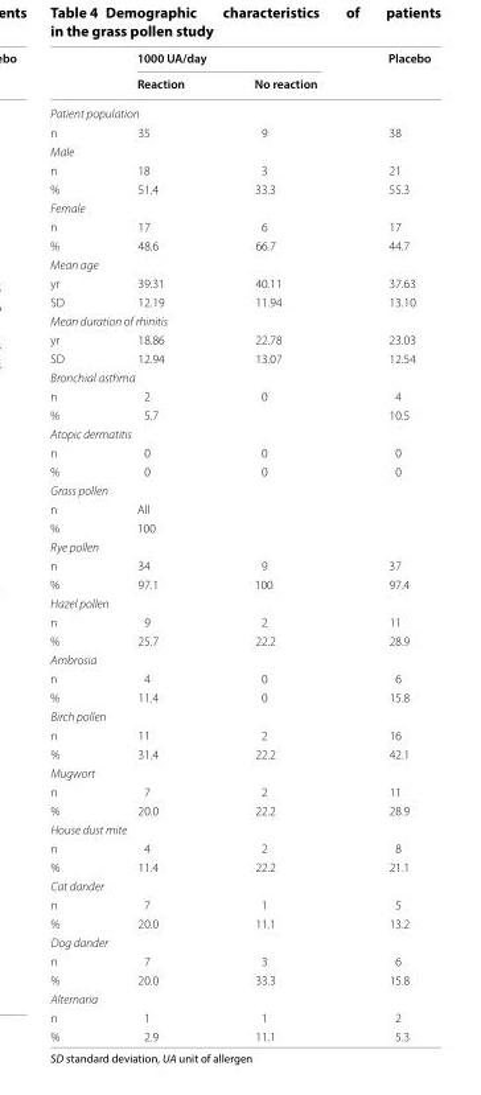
<table><thead><tr><td rowspan="2"></td><td colspan="2">1000 UA/day</td><td rowspan="2">Placebo</td></tr><tr><td>Reaction</td><td>No reaction</td></tr></thead><tbody><tr><td colspan="4">Patient population</td></tr><tr><td>n</td><td>35</td><td>9</td><td>38</td></tr><tr><td colspan="4">Male</td></tr><tr><td>n</td><td>18</td><td>3</td><td>21</td></tr><tr><td>%</td><td>51.4</td><td>33.3</td><td>55.3</td></tr><tr><td colspan="4">Female</td></tr><tr><td>n</td><td>17</td><td>6</td><td>17</td></tr><tr><td>%</td><td>48.6</td><td>66.7</td><td>44.7</td></tr><tr><td colspan="4">Mean age</td></tr><tr><td>yr</td><td>39.31</td><td>40.11</td><td>37.63</td></tr><tr><td>SD</td><td>12.19</td><td>11.94</td><td>13.10</td></tr><tr><td colspan="4">Mean duration of rhinitis</td></tr><tr><td>yr</td><td>18.86</td><td>22.78</td><td>23.03</td></tr><tr><td>SD</td><td>12.94</td><td>13.07</td><td>12.54</td></tr><tr><td colspan="4">Bronchial asthma</td></tr><tr><td>n</td><td>2</td><td>0</td><td>4</td></tr><tr><td>%</td><td>5.7</td><td></td><td>10.5</td></tr><tr><td colspan="4">Atopic dermatitis</td></tr><tr><td>n</td><td>0</td><td>0</td><td>0</td></tr><tr><td>%</td><td>0</td><td>0</td><td>0</td></tr><tr><td colspan="4">Grass pollen</td></tr><tr><td>n</td><td colspan="3">All</td></tr><tr><td>%</td><td colspan="3">100</td></tr><tr><td colspan="4">Rye pollen</td></tr><tr><td>n</td><td>34</td><td>9</td><td>37</td></tr><tr><td>%</td><td>97.1</td><td>100</td><td>97.4</td></tr><tr><td colspan="4">Hazel pollen</td></tr><tr><td>n</td><td>9</td><td>2</td><td>11</td></tr><tr><td>%</td><td>25.7</td><td>22.2</td><td>28.9</td></tr><tr><td colspan="4">Ambrosia</td></tr><tr><td>n</td><td>4</td><td>0</td><td>6</td></tr><tr><td>%</td><td>11.4</td><td>0</td><td>15.8</td></tr><tr><td colspan="4">Birch pollen</td></tr><tr><td>n</td><td>11</td><td>2</td><td>16</td></tr><tr><td>%</td><td>31.4</td><td>22.2</td><td>42.1</td></tr><tr><td colspan="4">Mugwort</td></tr><tr><td>n</td><td>7</td><td>2</td><td>11</td></tr><tr><td>%</td><td>20.0</td><td>22.2</td><td>28.9</td></tr><tr><td colspan="4">House dust mite</td></tr><tr><td>n</td><td>4</td><td>2</td><td>8</td></tr><tr><td>%</td><td>11.4</td><td>22.2</td><td>21.1</td></tr><tr><td colspan="4">Cat dander</td></tr><tr><td>n</td><td>7</td><td>1</td><td>5</td></tr><tr><td>%</td><td>20.0</td><td>11.1</td><td>13.2</td></tr><tr><td colspan="4">Dog dander</td></tr><tr><td>n</td><td>7</td><td>3</td><td>6</td></tr><tr><td>%</td><td>20.0</td><td>33.3</td><td>15.8</td></tr><tr><td colspan="4">Alternaria</td></tr><tr><td>n</td><td>1</td><td>1</td><td>2</td></tr><tr><td>%</td><td>2.9</td><td>11.1</td><td>5.3</td></tr></tbody></table>